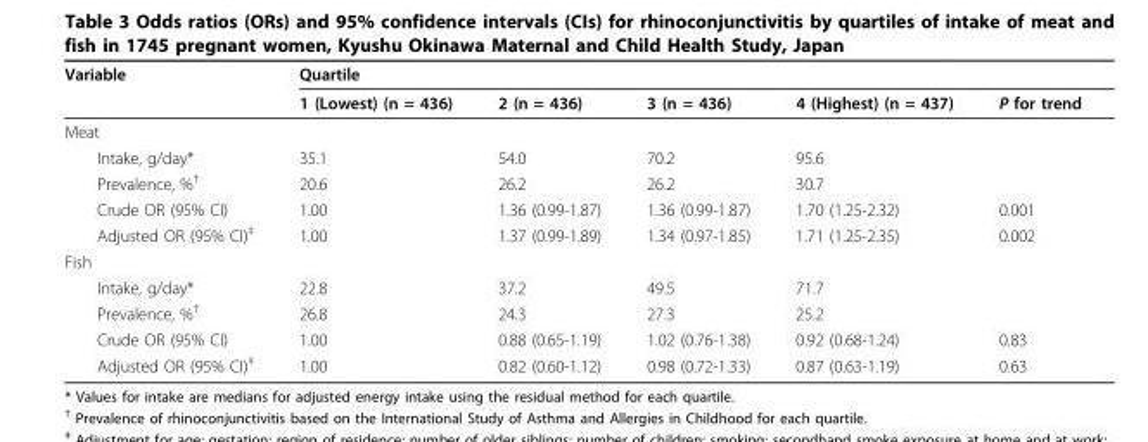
<table><thead><tr><td rowspan="2">Variable</td><td colspan="5">Quartile</td></tr><tr><td>1 (Lowest) (n = 436)</td><td>2 (n = 436)</td><td>3 (n = 436)</td><td>4 (Highest) (n = 437)</td><td>P for trend</td></tr></thead><tbody><tr><td colspan="6">Meat</td></tr><tr><td>Intake, g/day*</td><td>35.1</td><td>54.0</td><td>70.2</td><td>95.6</td><td></td></tr><tr><td>Prevalence, %<sup>†</sup></td><td>20.6</td><td>26.2</td><td>26.2</td><td>30.7</td><td></td></tr><tr><td>Crude OR (95% CI)</td><td>1.00</td><td>1.36 (0.99-1.87)</td><td>1.36 (0.99-1.87)</td><td>1.70 (1.25-2.32)</td><td>0.001</td></tr><tr><td>Adjusted OR (95% CI)<sup>‡</sup></td><td>1.00</td><td>1.37 (0.99-1.89)</td><td>1.34 (0.97-1.85)</td><td>1.71 (1.25-2.35)</td><td>0.002</td></tr><tr><td colspan="6">Fish</td></tr><tr><td>Intake, g/day*</td><td>22.8</td><td>37.2</td><td>49.5</td><td>71.7</td><td></td></tr><tr><td>Prevalence, %<sup>†</sup></td><td>26.8</td><td>24.3</td><td>27.3</td><td>25.2</td><td></td></tr><tr><td>Crude OR (95% CI)</td><td>1.00</td><td>0.88 (0.65-1.19)</td><td>1.02 (0.76-1.38)</td><td>0.92 (0.68-1.24)</td><td>0.83</td></tr><tr><td>Adjusted OR (95% CI)<sup>‡</sup></td><td>1.00</td><td>0.82 (0.60-1.12)</td><td>0.98 (0.72-1.33)</td><td>0.87 (0.63-1.19)</td><td>0.63</td></tr></tbody></table>